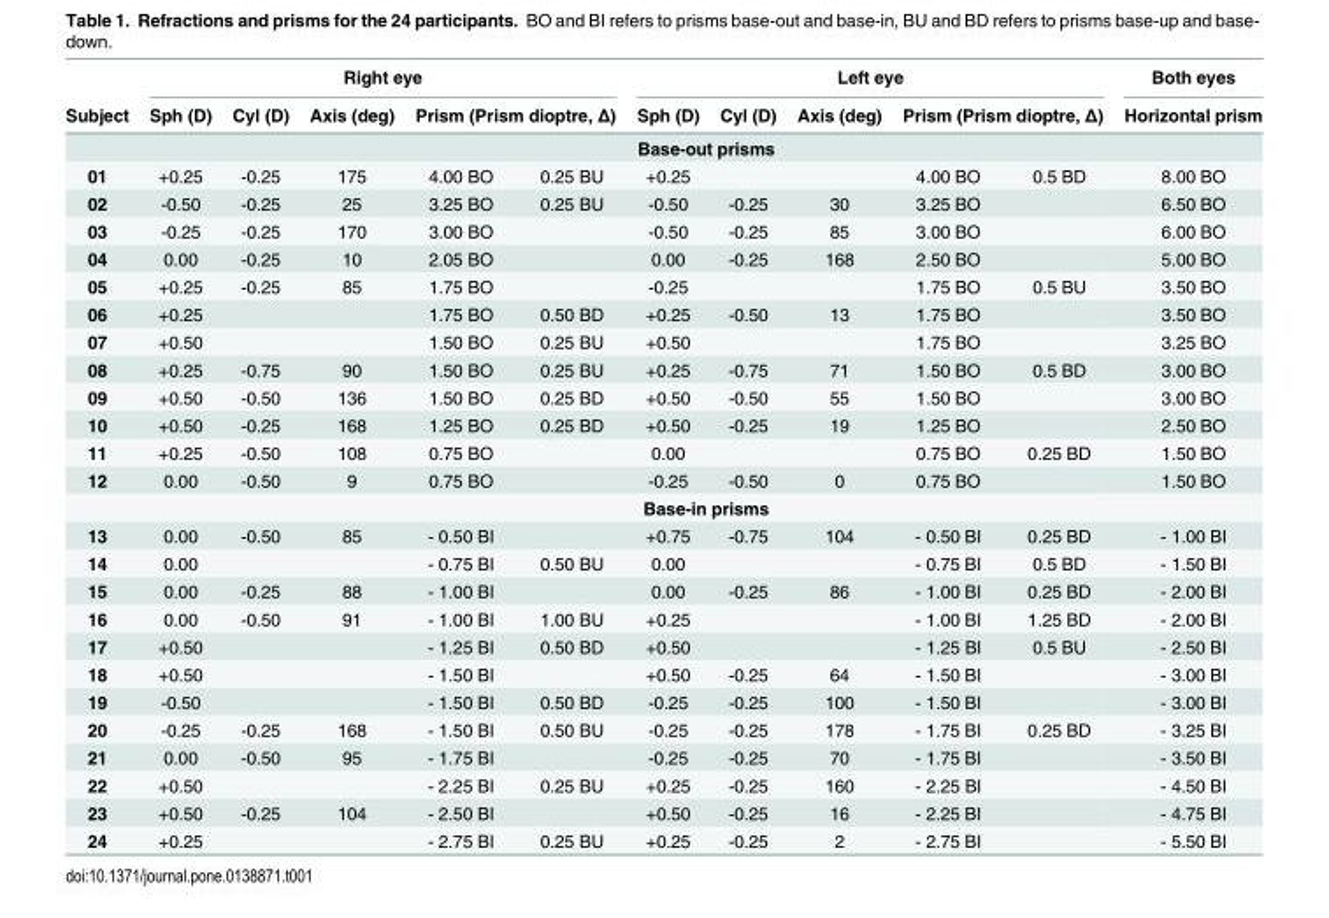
<table><thead><tr><td rowspan="4">Subject 01</td><td colspan="5">Right eye</td><td colspan="5">Left eye</td><td rowspan="2">Both eyes Horizontal prism</td></tr><tr><td>Sph (D)</td><td>Cyl (D)</td><td>Axis (deg)</td><td colspan="2">Prism (Prism dioptre, Δ)</td><td>Sph (D)</td><td>Cyl (D)</td><td>Axis (deg)</td><td colspan="2">Prism (Prism dioptre, Δ)</td></tr><tr><td colspan="11">Base-out prisms</td></tr><tr><td>+0.25</td><td>-0.25</td><td>175</td><td>4.00 BO</td><td>0.25 BU</td><td>+0.25</td><td></td><td></td><td>4.00 BO</td><td>0.5 BD</td><td>8.00 BO</td></tr></thead><tbody><tr><td>02</td><td>-0.50</td><td>-0.25</td><td>25</td><td>3.25 BO</td><td>0.25 BU</td><td>-0.50</td><td>-0.25</td><td>30</td><td>3.25 BO</td><td></td><td>6.50 BO</td></tr><tr><td>03</td><td>-0.25</td><td>-0.25</td><td>170</td><td>3.00 BO</td><td></td><td>-0.50</td><td>-0.25</td><td>85</td><td>3.00 BO</td><td></td><td>6.00 BO</td></tr><tr><td>04</td><td>0.00</td><td>-0.25</td><td>10</td><td>2.05 BO</td><td></td><td>0.00</td><td>-0.25</td><td>168</td><td>2.50 BO</td><td></td><td>5.00 BO</td></tr><tr><td>05</td><td>+0.25</td><td>-0.25</td><td>85</td><td>1.75 BO</td><td></td><td>-0.25</td><td></td><td></td><td>1.75 BO</td><td>0.5 BU</td><td>3.50 BO</td></tr><tr><td>06</td><td>+0.25</td><td></td><td></td><td>1.75 BO</td><td>0.50 BD</td><td>+0.25</td><td>-0.50</td><td>13</td><td>1.75 BO</td><td></td><td>3.50 BO</td></tr><tr><td>07</td><td>+0.50</td><td></td><td></td><td>1.50 BO</td><td>0.25 BU</td><td>+0.50</td><td></td><td></td><td>1.75 BO</td><td></td><td>3.25 BO</td></tr><tr><td>08</td><td>+0.25</td><td>-0.75</td><td>90</td><td>1.50 BO</td><td>0.25 BU</td><td>+0.25</td><td>-0.75</td><td>71</td><td>1.50 BO</td><td>0.5 BD</td><td>3.00 BO</td></tr><tr><td>09</td><td>+0.50</td><td>-0.50</td><td>136</td><td>1.50 BO</td><td>0.25 BD</td><td>+0.50</td><td>-0.50</td><td>55</td><td>1.50 BO</td><td></td><td>3.00 BO</td></tr><tr><td>10</td><td>+0.50</td><td>-0.25</td><td>168</td><td>1.25 BO</td><td>0.25 BD</td><td>+0.50</td><td>-0.25</td><td>19</td><td>1.25 BO</td><td></td><td>2.50 BO</td></tr><tr><td>11</td><td>+0.25</td><td>-0.50</td><td>108</td><td>0.75 BO</td><td></td><td>0.00</td><td></td><td></td><td>0.75 BO</td><td>0.25 BD</td><td>1.50 BO</td></tr><tr><td rowspan="2">12</td><td>0.00</td><td>-0.50</td><td>9</td><td>0.75 BO</td><td></td><td>-0.25</td><td>-0.50</td><td>0</td><td>0.75 BO</td><td></td><td>1.50 BO</td></tr><tr><td colspan="11">Base-in prisms</td></tr><tr><td>13</td><td>0.00</td><td>-0.50</td><td>85</td><td>- 0.50 BI</td><td></td><td>+0.75</td><td>-0.75</td><td>104</td><td>- 0.50 BI</td><td>0.25 BD</td><td>- 1.00 BI</td></tr><tr><td>14</td><td>0.00</td><td></td><td></td><td>- 0.75 BI</td><td>0.50 BU</td><td>0.00</td><td></td><td></td><td>- 0.75 BI</td><td>0.5 BD</td><td>- 1.50 BI</td></tr><tr><td>15</td><td>0.00</td><td>-0.25</td><td>88</td><td>- 1.00 BI</td><td></td><td>0.00</td><td>-0.25</td><td>86</td><td>- 1.00 BI</td><td>0.25 BD</td><td>- 2.00 BI</td></tr><tr><td>16</td><td>0.00</td><td>-0.50</td><td>91</td><td>- 1.00 BI</td><td>1.00 BU</td><td>+0.25</td><td></td><td></td><td>- 1.00 BI</td><td>1.25 BD</td><td>- 2.00 BI</td></tr><tr><td>17</td><td>+0.50</td><td></td><td></td><td>- 1.25 BI</td><td>0.50 BD</td><td>+0.50</td><td></td><td></td><td>- 1.25 BI</td><td>0.5 BU</td><td>- 2.50 BI</td></tr><tr><td>18</td><td>+0.50</td><td></td><td></td><td>- 1.50 BI</td><td></td><td>+0.50</td><td>-0.25</td><td>64</td><td>- 1.50 BI</td><td></td><td>- 3.00 BI</td></tr><tr><td>19</td><td>-0.50</td><td></td><td></td><td>- 1.50 BI</td><td>0.50 BD</td><td>-0.25</td><td>-0.25</td><td>100</td><td>- 1.50 BI</td><td></td><td>- 3.00 BI</td></tr><tr><td>20</td><td>-0.25</td><td>-0.25</td><td>168</td><td>- 1.50 BI</td><td>0.50 BU</td><td>-0.25</td><td>-0.25</td><td>178</td><td>- 1.75 BI</td><td>0.25 BD</td><td>- 3.25 BI</td></tr><tr><td>21</td><td>0.00</td><td>-0.50</td><td>95</td><td>- 1.75 BI</td><td></td><td>-0.25</td><td>-0.25</td><td>70</td><td>- 1.75 BI</td><td></td><td>- 3.50 BI</td></tr><tr><td>22</td><td>+0.50</td><td></td><td></td><td>- 2.25 BI</td><td>0.25 BU</td><td>+0.25</td><td>-0.25</td><td>160</td><td>- 2.25 BI</td><td></td><td>- 4.50 BI</td></tr><tr><td>23</td><td>+0.50</td><td>-0.25</td><td>104</td><td>- 2.50 BI</td><td></td><td>+0.50</td><td>-0.25</td><td>16</td><td>- 2.25 BI</td><td></td><td>- 4.75 BI</td></tr><tr><td>24</td><td>+0.25</td><td></td><td></td><td>- 2.75 BI</td><td>0.25 BU</td><td>+0.25</td><td>-0.25</td><td>2</td><td>- 2.75 BI</td><td></td><td>- 5.50 BI</td></tr></tbody></table>